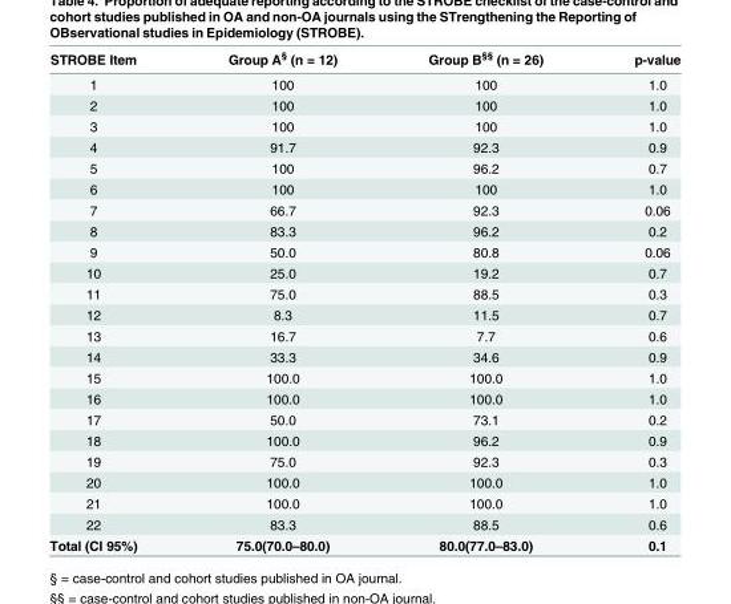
<table><thead><tr><td>STROBE Item</td><td>Group A<sup>§</sup> (n = 12)</td><td>Group B<sup>§§</sup> (n = 26)</td><td>p-value</td></tr></thead><tbody><tr><td>1</td><td>100</td><td>100</td><td>1.0</td></tr><tr><td>2</td><td>100</td><td>100</td><td>1.0</td></tr><tr><td>3</td><td>100</td><td>100</td><td>1.0</td></tr><tr><td>4</td><td>91.7</td><td>92.3</td><td>0.9</td></tr><tr><td>5</td><td>100</td><td>96.2</td><td>0.7</td></tr><tr><td>6</td><td>100</td><td>100</td><td>1.0</td></tr><tr><td>7</td><td>66.7</td><td>92.3</td><td>0.06</td></tr><tr><td>8</td><td>83.3</td><td>96.2</td><td>0.2</td></tr><tr><td>9</td><td>50.0</td><td>80.8</td><td>0.06</td></tr><tr><td>10</td><td>25.0</td><td>19.2</td><td>0.7</td></tr><tr><td>11</td><td>75.0</td><td>88.5</td><td>0.3</td></tr><tr><td>12</td><td>8.3</td><td>11.5</td><td>0.7</td></tr><tr><td>13</td><td>16.7</td><td>7.7</td><td>0.6</td></tr><tr><td>14</td><td>33.3</td><td>34.6</td><td>0.9</td></tr><tr><td>15</td><td>100.0</td><td>100.0</td><td>1.0</td></tr><tr><td>16</td><td>100.0</td><td>100.0</td><td>1.0</td></tr><tr><td>17</td><td>50.0</td><td>73.1</td><td>0.2</td></tr><tr><td>18</td><td>100.0</td><td>96.2</td><td>0.9</td></tr><tr><td>19</td><td>75.0</td><td>92.3</td><td>0.3</td></tr><tr><td>20</td><td>100.0</td><td>100.0</td><td>1.0</td></tr><tr><td>21</td><td>100.0</td><td>100.0</td><td>1.0</td></tr><tr><td>22</td><td>83.3</td><td>88.5</td><td>0.6</td></tr><tr><td>Total (CI 95%)</td><td>75.0(70.0–80.0)</td><td>80.0(77.0–83.0)</td><td>0.1</td></tr></tbody></table>